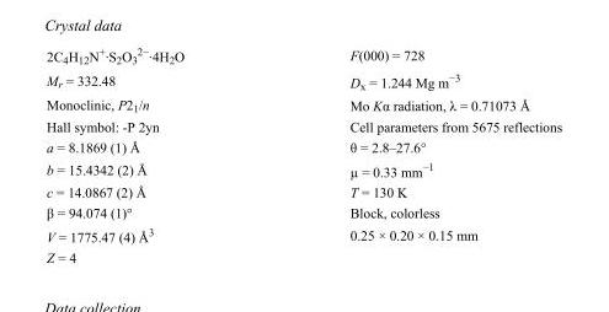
<table><tbody><tr><td>2C<sub>4</sub>H<sub>12</sub>N<sup>+</sup>·S<sub>2</sub>O<sub>3</sub> <sup>2−</sup>·4H<sub>2</sub>O</td><td>F(000) = 728</td></tr><tr><td>M<sub>r</sub> = 332.48</td><td>D<sub>x</sub> = 1.244 Mg m<sup>−3</sup></td></tr><tr><td>Monoclinic, P2<sub>1</sub>/n</td><td>Mo Kα radiation, λ = 0.71073 Å</td></tr><tr><td>Hall symbol: -P 2yn</td><td>Cell parameters from 5675 reflections</td></tr><tr><td>a = 8.1869 (1) Å</td><td>θ = 2.8–27.6°</td></tr><tr><td>b = 15.4342 (2) Å</td><td>µ = 0.33 mm<sup>−1</sup></td></tr><tr><td>c = 14.0867 (2) Å</td><td>T = 130 K</td></tr><tr><td>β = 94.074 (1)°</td><td>Block, colorless</td></tr><tr><td>V = 1775.47 (4) Å<sup>3</sup></td><td>0.25 × 0.20 × 0.15 mm</td></tr><tr><td>Z = 4</td><td></td></tr></tbody></table>